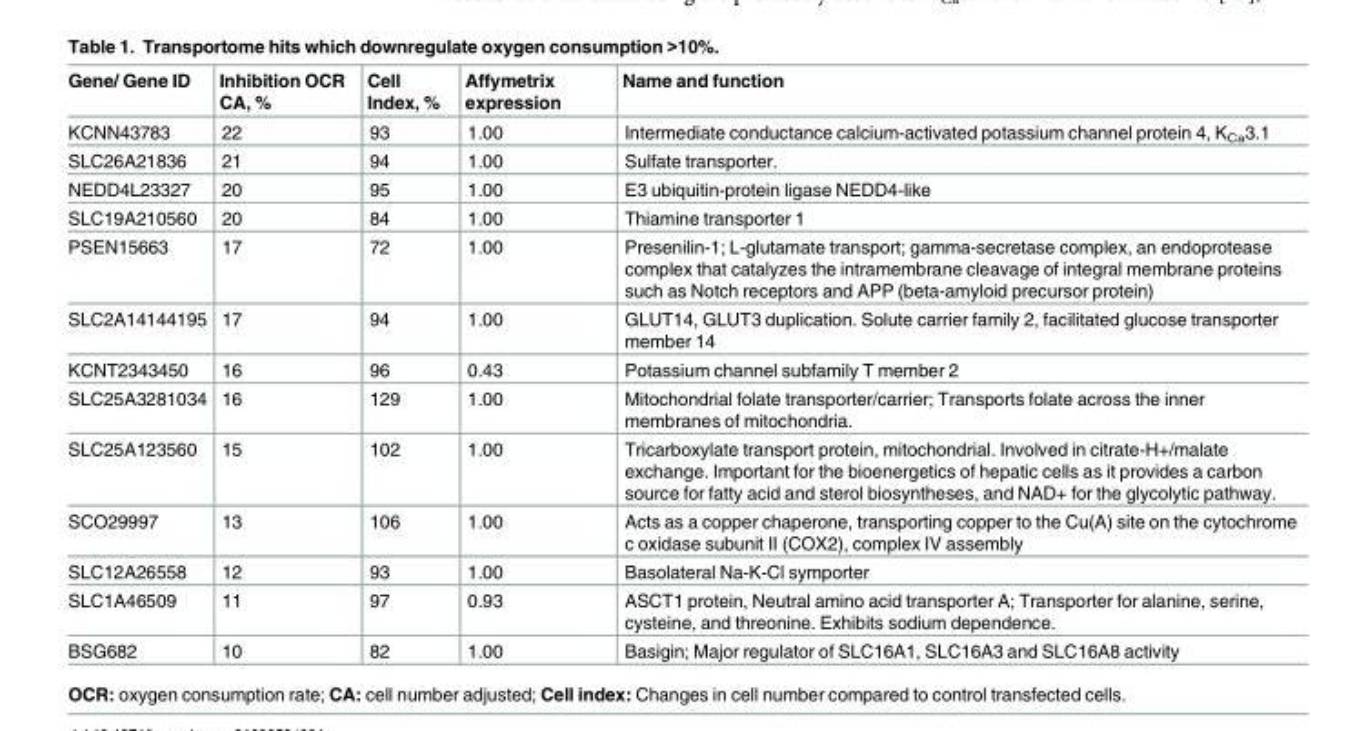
<table><thead><tr><td>Gene/ Gene ID</td><td>Inhibition OCR CA, %</td><td>Cell Index, %</td><td>Affymetrix expression</td><td>Name and function</td></tr></thead><tbody><tr><td>KCNN43783</td><td>22</td><td>93</td><td>1.00</td><td>Intermediate conductance calcium-activated potassium channel protein 4, K<sub>Ca</sub>3.1</td></tr><tr><td>SLC26A21836</td><td>21</td><td>94</td><td>1.00</td><td>Sulfate transporter.</td></tr><tr><td>NEDD4L23327</td><td>20</td><td>95</td><td>1.00</td><td>E3 ubiquitin-protein ligase NEDD4-like</td></tr><tr><td>SLC19A210560</td><td>20</td><td>84</td><td>1.00</td><td>Thiamine transporter 1</td></tr><tr><td>PSEN15663</td><td>17</td><td>72</td><td>1.00</td><td>Presenilin-1; L-glutamate transport; gamma-secretase complex, an endoprotease complex that catalyzes the intramembrane cleavage of integral membrane proteins such as Notch receptors and APP (beta-amyloid precursor protein)</td></tr><tr><td>SLC2A14144195</td><td>17</td><td>94</td><td>1.00</td><td>GLUT14, GLUT3 duplication. Solute carrier family 2, facilitated glucose transporter member 14</td></tr><tr><td>KCNT2343450</td><td>16</td><td>96</td><td>0.43</td><td>Potassium channel subfamily T member 2</td></tr><tr><td>SLC25A3281034</td><td>16</td><td>129</td><td>1.00</td><td>Mitochondrial folate transporter/carrier; Transports folate across the inner membranes of mitochondria.</td></tr><tr><td>SLC25A123560</td><td>15</td><td>102</td><td>1.00</td><td>Tricarboxylate transport protein, mitochondrial. Involved in citrate-H+/malate exchange. Important for the bioenergetics of hepatic cells as it provides a carbon source for fatty acid and sterol biosyntheses, and NAD+ for the glycolytic pathway.</td></tr><tr><td>SCO29997</td><td>13</td><td>106</td><td>1.00</td><td>Acts as a copper chaperone, transporting copper to the Cu(A) site on the cytochrome c oxidase subunit II (COX2), complex IV assembly</td></tr><tr><td>SLC12A26558</td><td>12</td><td>93</td><td>1.00</td><td>Basolateral Na-K-Cl symporter</td></tr><tr><td>SLC1A46509</td><td>11</td><td>97</td><td>0.93</td><td>ASCT1 protein, Neutral amino acid transporter A; Transporter for alanine, serine, cysteine, and threonine. Exhibits sodium dependence.</td></tr><tr><td>BSG682</td><td>10</td><td>82</td><td>1.00</td><td>Basigin; Major regulator of SLC16A1, SLC16A3 and SLC16A8 activity</td></tr></tbody></table>